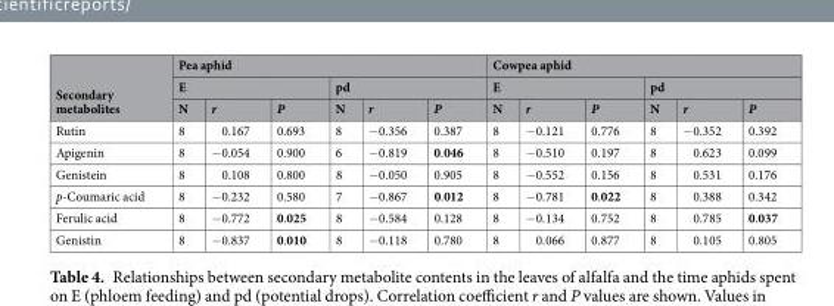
<table><thead><tr><td rowspan="3">Secondary metabolites</td><td colspan="6">Pea aphid</td><td colspan="6">Cowpea aphid</td></tr><tr><td colspan="3">E</td><td colspan="3">pd</td><td colspan="3">E</td><td colspan="3">pd</td></tr><tr><td>N</td><td>r</td><td>P</td><td>N</td><td>r</td><td>P</td><td>N</td><td>r</td><td>P</td><td>N</td><td>r</td><td>P</td></tr></thead><tbody><tr><td>Rutin</td><td>8</td><td>0.167</td><td>0.693</td><td>8</td><td>−0.356</td><td>0.387</td><td>8</td><td>−0.121</td><td>0.776</td><td>8</td><td>−0.352</td><td>0.392</td></tr><tr><td>Apigenin</td><td>8</td><td>−0.054</td><td>0.900</td><td>6</td><td>−0.819</td><td>0.046</td><td>8</td><td>−0.510</td><td>0.197</td><td>8</td><td>0.623</td><td>0.099</td></tr><tr><td>Genistein</td><td>8</td><td>0.108</td><td>0.800</td><td>8</td><td>−0.050</td><td>0.905</td><td>8</td><td>−0.552</td><td>0.156</td><td>8</td><td>0.531</td><td>0.176</td></tr><tr><td>p-Coumaric acid</td><td>8</td><td>−0.232</td><td>0.580</td><td>7</td><td>−0.867</td><td>0.012</td><td>8</td><td>−0.781</td><td>0.022</td><td>8</td><td>0.388</td><td>0.342</td></tr><tr><td>Ferulic acid</td><td>8</td><td>−0.772</td><td>0.025</td><td>8</td><td>−0.584</td><td>0.128</td><td>8</td><td>−0.134</td><td>0.752</td><td>8</td><td>0.785</td><td>0.037</td></tr><tr><td>Genistin</td><td>8</td><td>−0.837</td><td>0.010</td><td>8</td><td>−0.118</td><td>0.780</td><td>8</td><td>0.066</td><td>0.877</td><td>8</td><td>0.105</td><td>0.805</td></tr></tbody></table>